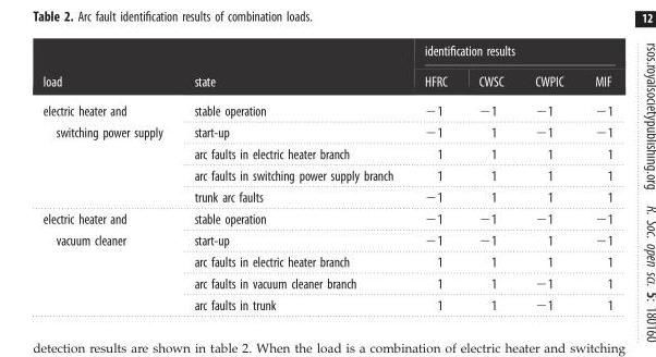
<table><thead><tr><td rowspan="2">load</td><td rowspan="2">state</td><td colspan="4">identification results</td></tr><tr><td>HFRC</td><td>CWSC</td><td>CWPIC</td><td>MIF</td></tr></thead><tbody><tr><td rowspan="5">electric heater and switching power supply</td><td>stable operation</td><td>−1</td><td>−1</td><td>−1</td><td>−1</td></tr><tr><td>start-up</td><td>−1</td><td>1</td><td>−1</td><td>−1</td></tr><tr><td>arc faults in electric heater branch</td><td>1</td><td>1</td><td>1</td><td>1</td></tr><tr><td>arc faults in switching power supply branch</td><td>1</td><td>1</td><td>1</td><td>1</td></tr><tr><td>trunk arc faults</td><td>−1</td><td>1</td><td>1</td><td>1</td></tr><tr><td rowspan="5">electric heater and vacuum cleaner</td><td>stable operation</td><td>−1</td><td>−1</td><td>−1</td><td>−1</td></tr><tr><td>start-up</td><td>−1</td><td>−1</td><td>1</td><td>−1</td></tr><tr><td>arc faults in electric heater branch</td><td>1</td><td>1</td><td>1</td><td>1</td></tr><tr><td>arc faults in vacuum cleaner branch</td><td>1</td><td>1</td><td>−1</td><td>1</td></tr><tr><td>arc faults in trunk</td><td>1</td><td>1</td><td>−1</td><td>1</td></tr></tbody></table>